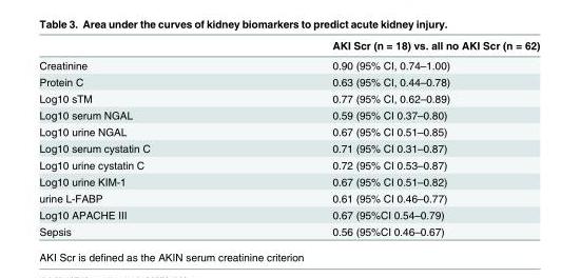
<table><thead><tr><td></td><td>AKI Scr (n = 18) vs. all no AKI Scr (n = 62)</td></tr></thead><tbody><tr><td>Creatinine</td><td>0.90 (95% CI, 0.74–1.00)</td></tr><tr><td>Protein C</td><td>0.63 (95% CI, 0.44–0.78)</td></tr><tr><td>Log10 sTM</td><td>0.77 (95% CI, 0.62–0.89)</td></tr><tr><td>Log10 serum NGAL</td><td>0.59 (95% CI 0.37–0.80)</td></tr><tr><td>Log10 urine NGAL</td><td>0.67 (95% CI 0.51–0.85)</td></tr><tr><td>Log10 serum cystatin C</td><td>0.71 (95% CI 0.31–0.87)</td></tr><tr><td>Log10 urine cystatin C</td><td>0.72 (95% CI 0.53–0.87)</td></tr><tr><td>Log10 urine KIM-1</td><td>0.67 (95% CI 0.51–0.82)</td></tr><tr><td>urine L-FABP</td><td>0.61 (95% CI 0.46–0.77)</td></tr><tr><td>Log10 APACHE III</td><td>0.67 (95%CI 0.54–0.79)</td></tr><tr><td>Sepsis</td><td>0.56 (95%CI 0.46–0.67)</td></tr></tbody></table>